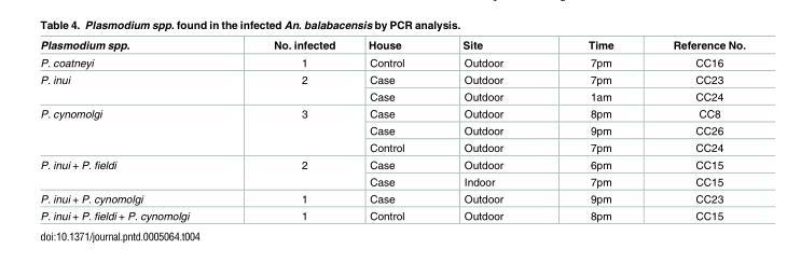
<table><thead><tr><td>Plasmodium spp.</td><td>No. infected</td><td>House</td><td>Site</td><td>Time</td><td>Reference No.</td></tr></thead><tbody><tr><td>P. coatneyi</td><td>1</td><td>Control</td><td>Outdoor</td><td>7pm</td><td>CC16</td></tr><tr><td rowspan="2">P. inui</td><td rowspan="2">2</td><td>Case</td><td>Outdoor</td><td>7pm</td><td>CC23</td></tr><tr><td>Case</td><td>Outdoor</td><td>1am</td><td>CC24</td></tr><tr><td rowspan="3">P. cynomolgi</td><td rowspan="3">3</td><td>Case</td><td>Outdoor</td><td>8pm</td><td>CC8</td></tr><tr><td>Case</td><td>Outdoor</td><td>9pm</td><td>CC26</td></tr><tr><td>Control</td><td>Outdoor</td><td>7pm</td><td>CC24</td></tr><tr><td rowspan="2">P. inui + P. fieldi</td><td rowspan="2">2</td><td>Case</td><td>Outdoor</td><td>6pm</td><td>CC15</td></tr><tr><td>Case</td><td>Indoor</td><td>7pm</td><td>CC15</td></tr><tr><td>P. inui + P. cynomolgi</td><td>1</td><td>Case</td><td>Outdoor</td><td>9pm</td><td>CC23</td></tr><tr><td>P. inui + P. fieldi + P. cynomolgi</td><td>1</td><td>Control</td><td>Outdoor</td><td>8pm</td><td>CC15</td></tr></tbody></table>